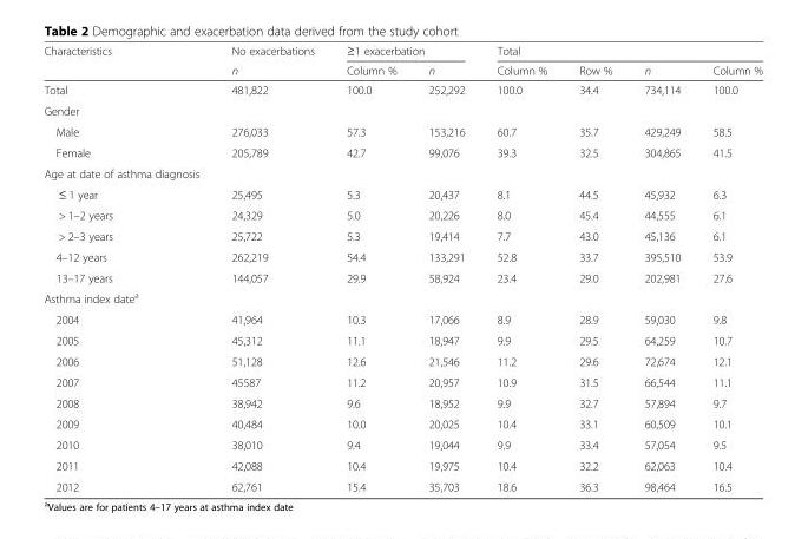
<table><thead><tr><td rowspan="2">Characteristics</td><td rowspan="2">No exacerbations n</td><td colspan="2">≥1 exacerbation</td><td colspan="4">Total</td></tr><tr><td>Column %</td><td>n</td><td>Column %</td><td>Row %</td><td>n</td><td>Column %</td></tr></thead><tbody><tr><td>Total</td><td>481,822</td><td>100.0</td><td>252,292</td><td>100.0</td><td>34.4</td><td>734,114</td><td>100.0</td></tr><tr><td colspan="8">Gender</td></tr><tr><td>Male</td><td>276,033</td><td>57.3</td><td>153,216</td><td>60.7</td><td>35.7</td><td>429,249</td><td>58.5</td></tr><tr><td>Female</td><td>205,789</td><td>42.7</td><td>99,076</td><td>39.3</td><td>32.5</td><td>304,865</td><td>41.5</td></tr><tr><td colspan="8">Age at date of asthma diagnosis</td></tr><tr><td>≤ 1 year</td><td>25,495</td><td>5.3</td><td>20,437</td><td>8.1</td><td>44.5</td><td>45,932</td><td>6.3</td></tr><tr><td>&gt; 1–2 years</td><td>24,329</td><td>5.0</td><td>20,226</td><td>8.0</td><td>45.4</td><td>44,555</td><td>6.1</td></tr><tr><td>&gt; 2–3 years</td><td>25,722</td><td>5.3</td><td>19,414</td><td>7.7</td><td>43.0</td><td>45,136</td><td>6.1</td></tr><tr><td>4–12 years</td><td>262,219</td><td>54.4</td><td>133,291</td><td>52.8</td><td>33.7</td><td>395,510</td><td>53.9</td></tr><tr><td>13–17 years</td><td>144,057</td><td>29.9</td><td>58,924</td><td>23.4</td><td>29.0</td><td>202,981</td><td>27.6</td></tr><tr><td colspan="8">Asthma index date<sup>a</sup></td></tr><tr><td>2004</td><td>41,964</td><td>10.3</td><td>17,066</td><td>8.9</td><td>28.9</td><td>59,030</td><td>9.8</td></tr><tr><td>2005</td><td>45,312</td><td>11.1</td><td>18,947</td><td>9.9</td><td>29.5</td><td>64,259</td><td>10.7</td></tr><tr><td>2006</td><td>51,128</td><td>12.6</td><td>21,546</td><td>11.2</td><td>29.6</td><td>72,674</td><td>12.1</td></tr><tr><td>2007</td><td>45587</td><td>11.2</td><td>20,957</td><td>10.9</td><td>31.5</td><td>66,544</td><td>11.1</td></tr><tr><td>2008</td><td>38,942</td><td>9.6</td><td>18,952</td><td>9.9</td><td>32.7</td><td>57,894</td><td>9.7</td></tr><tr><td>2009</td><td>40,484</td><td>10.0</td><td>20,025</td><td>10.4</td><td>33.1</td><td>60,509</td><td>10.1</td></tr><tr><td>2010</td><td>38,010</td><td>9.4</td><td>19,044</td><td>9.9</td><td>33.4</td><td>57,054</td><td>9.5</td></tr><tr><td>2011</td><td>42,088</td><td>10.4</td><td>19,975</td><td>10.4</td><td>32.2</td><td>62,063</td><td>10.4</td></tr><tr><td>2012</td><td>62,761</td><td>15.4</td><td>35,703</td><td>18.6</td><td>36.3</td><td>98,464</td><td>16.5</td></tr></tbody></table>